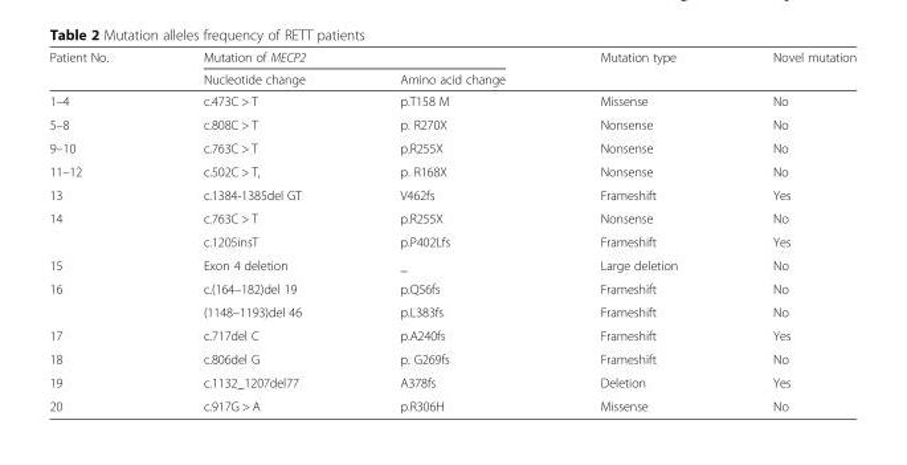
<table><thead><tr><td rowspan="2">Patient No.</td><td colspan="2">Mutation of MECP2</td><td rowspan="2">Mutation type</td><td rowspan="2">Novel mutation</td></tr><tr><td>Nucleotide change</td><td>Amino acid change</td></tr></thead><tbody><tr><td>1–4</td><td>c.473C &gt; T</td><td>p.T158 M</td><td>Missense</td><td>No</td></tr><tr><td>5–8</td><td>c.808C &gt; T</td><td>p. R270X</td><td>Nonsense</td><td>No</td></tr><tr><td>9–10</td><td>c.763C &gt; T</td><td>p.R255X</td><td>Nonsense</td><td>No</td></tr><tr><td>11–12</td><td>c.502C &gt; T,</td><td>p. R168X</td><td>Nonsense</td><td>No</td></tr><tr><td>13</td><td>c.1384-1385del GT</td><td>V462fs</td><td>Frameshift</td><td>Yes</td></tr><tr><td rowspan="2">14</td><td>c.763C &gt; T</td><td>p.R255X</td><td>Nonsense</td><td>No</td></tr><tr><td>c.1205insT</td><td>p.P402Lfs</td><td>Frameshift</td><td>Yes</td></tr><tr><td>15</td><td>Exon 4 deletion</td><td>_</td><td>Large deletion</td><td>No</td></tr><tr><td rowspan="2">16</td><td>c.(164–182)del 19</td><td>p.Q56fs</td><td>Frameshift</td><td>No</td></tr><tr><td>(1148–1193)del 46</td><td>p.L383fs</td><td>Frameshift</td><td>No</td></tr><tr><td>17</td><td>c.717del C</td><td>p.A240fs</td><td>Frameshift</td><td>Yes</td></tr><tr><td>18</td><td>c.806del G</td><td>p. G269fs</td><td>Frameshift</td><td>No</td></tr><tr><td>19</td><td>c.1132_1207del77</td><td>A378fs</td><td>Deletion</td><td>Yes</td></tr><tr><td>20</td><td>c.917G &gt; A</td><td>p.R306H</td><td>Missense</td><td>No</td></tr></tbody></table>